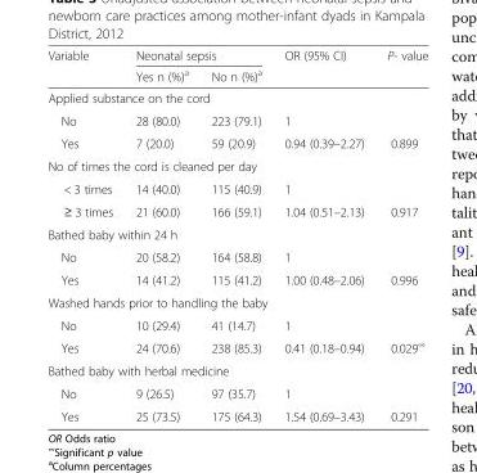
<table><thead><tr><td rowspan="2">Variable</td><td colspan="2">Neonatal sepsis</td><td rowspan="2">OR (95% CI)</td><td rowspan="2">P- value</td></tr><tr><td>Yes n (%)<sup>a</sup></td><td>No n (%)<sup>a</sup></td></tr></thead><tbody><tr><td colspan="5">Applied substance on the cord</td></tr><tr><td>No</td><td>28 (80.0)</td><td>223 (79.1)</td><td>1</td><td></td></tr><tr><td>Yes</td><td>7 (20.0)</td><td>59 (20.9)</td><td>0.94 (0.39–2.27)</td><td>0.899</td></tr><tr><td colspan="5">No of times the cord is cleaned per day</td></tr><tr><td>&lt; 3 times</td><td>14 (40.0)</td><td>115 (40.9)</td><td>1</td><td></td></tr><tr><td>≥ 3 times</td><td>21 (60.0)</td><td>166 (59.1)</td><td>1.04 (0.51–2.13)</td><td>0.917</td></tr><tr><td colspan="5">Bathed baby within 24 h</td></tr><tr><td>No</td><td>20 (58.2)</td><td>164 (58.8)</td><td>1</td><td></td></tr><tr><td>Yes</td><td>14 (41.2)</td><td>115 (41.2)</td><td>1.00 (0.48–2.06)</td><td>0.996</td></tr><tr><td colspan="5">Washed hands prior to handling the baby</td></tr><tr><td>No</td><td>10 (29.4)</td><td>41 (14.7)</td><td>1</td><td></td></tr><tr><td>Yes</td><td>24 (70.6)</td><td>238 (85.3)</td><td>0.41 (0.18–0.94)</td><td>0.029<sup>∞</sup></td></tr><tr><td colspan="5">Bathed baby with herbal medicine</td></tr><tr><td>No</td><td>9 (26.5)</td><td>97 (35.7)</td><td>1</td><td></td></tr><tr><td>Yes</td><td>25 (73.5)</td><td>175 (64.3)</td><td>1.54 (0.69–3.43)</td><td>0.291</td></tr></tbody></table>